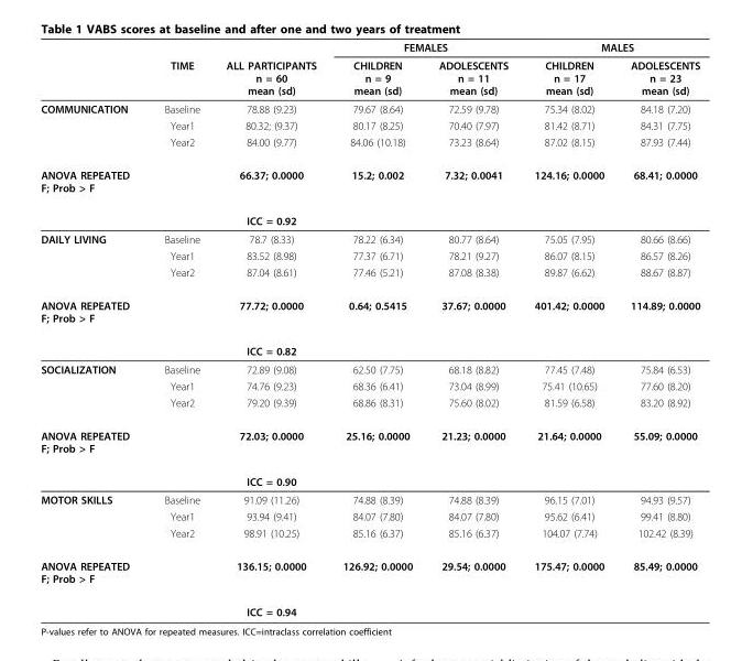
<table><thead><tr><td rowspan="2"></td><td rowspan="2">TIME</td><td rowspan="2">ALL PARTICIPANTS n = 60 mean (sd)</td><td colspan="2">FEMALES</td><td colspan="2">MALES</td></tr><tr><td>CHILDREN n = 9 mean (sd)</td><td>ADOLESCENTS n = 11 mean (sd)</td><td>CHILDREN n = 17 mean (sd)</td><td>ADOLESCENTS n = 23 mean (sd)</td></tr></thead><tbody><tr><td rowspan="3">COMMUNICATION</td><td>Baseline</td><td>78.88 (9.23)</td><td>79.67 (8.64)</td><td>72.59 (9.78)</td><td>75.34 (8.02)</td><td>84.18 (7.20)</td></tr><tr><td>Year1</td><td>80.32; (9.37)</td><td>80.17 (8.25)</td><td>70.40 (7.97)</td><td>81.42 (8.71)</td><td>84.31 (7.75)</td></tr><tr><td>Year2</td><td>84.00 (9.77)</td><td>84.06 (10.18)</td><td>73.23 (8.64)</td><td>87.02 (8.15)</td><td>87.93 (7.44)</td></tr><tr><td rowspan="2">ANOVA REPEATED F; Prob &gt; F</td><td></td><td>66.37; 0.0000</td><td>15.2; 0.002</td><td>7.32; 0.0041</td><td>124.16; 0.0000</td><td>68.41; 0.0000</td></tr><tr><td></td><td>ICC = 0.92</td><td></td><td></td><td></td><td></td></tr><tr><td rowspan="3">DAILY LIVING</td><td>Baseline</td><td>78.7 (8.33)</td><td>78.22 (6.34)</td><td>80.77 (8.64)</td><td>75.05 (7.95)</td><td>80.66 (8.66)</td></tr><tr><td>Year1</td><td>83.52 (8.98)</td><td>77.37 (6.71)</td><td>78.21 (9.27)</td><td>86.07 (8.15)</td><td>86.57 (8.26)</td></tr><tr><td>Year2</td><td>87.04 (8.61)</td><td>77.46 (5.21)</td><td>87.08 (8.38)</td><td>89.87 (6.62)</td><td>88.67 (8.87)</td></tr><tr><td rowspan="2">ANOVA REPEATED F; Prob &gt; F</td><td></td><td>77.72; 0.0000</td><td>0.64; 0.5415</td><td>37.67; 0.0000</td><td>401.42; 0.0000</td><td>114.89; 0.0000</td></tr><tr><td></td><td>ICC = 0.82</td><td></td><td></td><td></td><td></td></tr><tr><td rowspan="3">SOCIALIZATION</td><td>Baseline</td><td>72.89 (9.08)</td><td>62.50 (7.75)</td><td>68.18 (8.82)</td><td>77.45 (7.48)</td><td>75.84 (6.53)</td></tr><tr><td>Year1</td><td>74.76 (9.23)</td><td>68.36 (6.41)</td><td>73.04 (8.99)</td><td>75.41 (10.65)</td><td>77.60 (8.20)</td></tr><tr><td>Year2</td><td>79.20 (9.39)</td><td>68.86 (8.31)</td><td>75.60 (8.02)</td><td>81.59 (6.58)</td><td>83.20 (8.92)</td></tr><tr><td rowspan="2">ANOVA REPEATED F; Prob &gt; F</td><td></td><td>72.03; 0.0000</td><td>25.16; 0.0000</td><td>21.23; 0.0000</td><td>21.64; 0.0000</td><td>55.09; 0.0000</td></tr><tr><td></td><td>ICC = 0.90</td><td></td><td></td><td></td><td></td></tr><tr><td rowspan="3">MOTOR SKILLS</td><td>Baseline</td><td>91.09 (11.26)</td><td>74.88 (8.39)</td><td>74.88 (8.39)</td><td>96.15 (7.01)</td><td>94.93 (9.57)</td></tr><tr><td>Year1</td><td>93.94 (9.41)</td><td>84.07 (7.80)</td><td>84.07 (7.80)</td><td>95.62 (6.41)</td><td>99.41 (8.80)</td></tr><tr><td>Year2</td><td>98.91 (10.25)</td><td>85.16 (6.37)</td><td>85.16 (6.37)</td><td>104.07 (7.74)</td><td>102.42 (8.39)</td></tr><tr><td rowspan="2">ANOVA REPEATED F; Prob &gt; F</td><td></td><td>136.15; 0.0000</td><td>126.92; 0.0000</td><td>29.54; 0.0000</td><td>175.47; 0.0000</td><td>85.49; 0.0000</td></tr><tr><td></td><td>ICC = 0.94</td><td></td><td></td><td></td><td></td></tr></tbody></table>